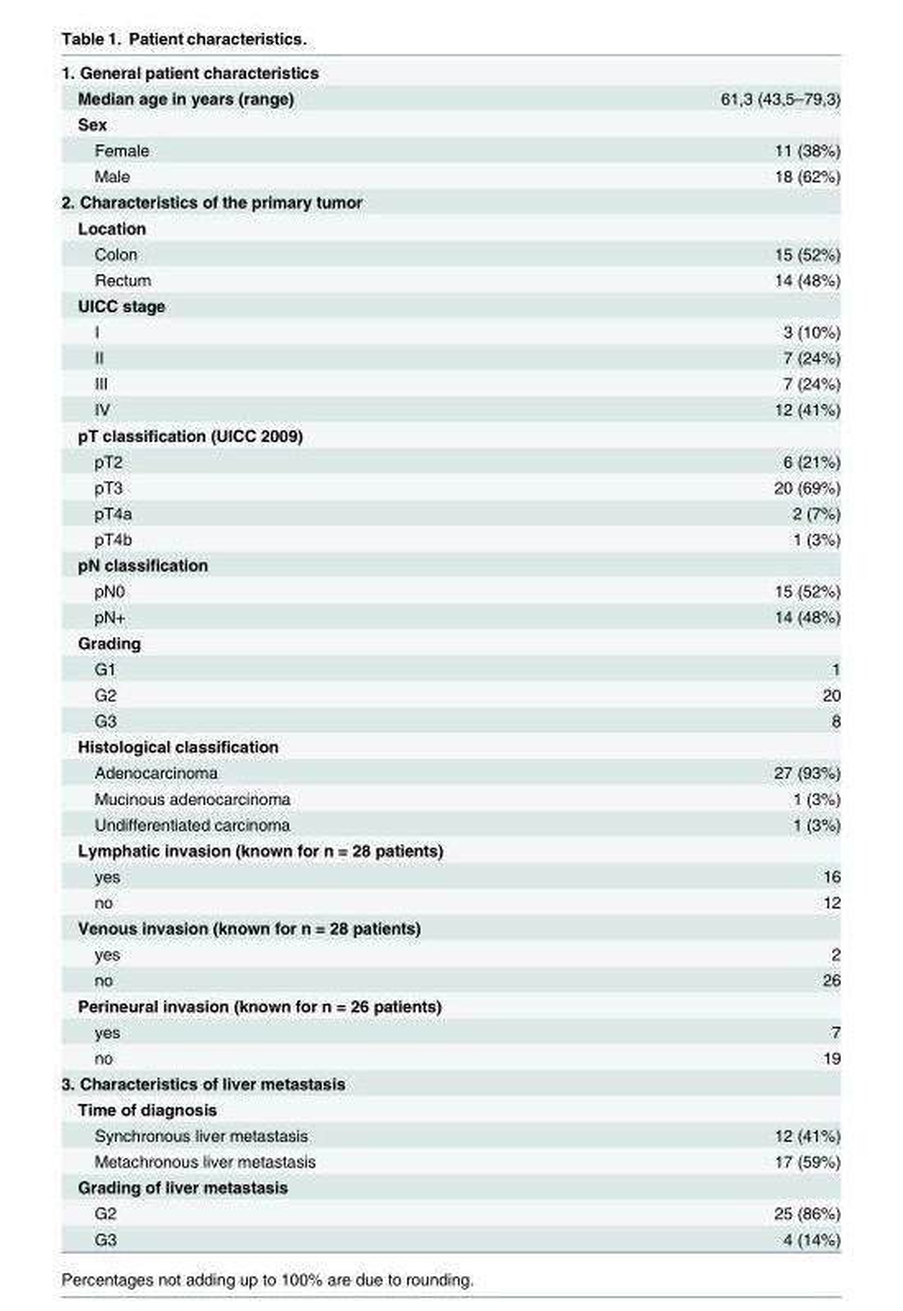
<table><tbody><tr><td colspan="2">1. General patient characteristics</td></tr><tr><td>Median age in years (range)</td><td>61,3 (43,5–79,3)</td></tr><tr><td colspan="2">Sex</td></tr><tr><td>Female</td><td>11 (38%)</td></tr><tr><td>Male</td><td>18 (62%)</td></tr><tr><td colspan="2">2. Characteristics of the primary tumor</td></tr><tr><td colspan="2">Location</td></tr><tr><td>Colon</td><td>15 (52%)</td></tr><tr><td>Rectum</td><td>14 (48%)</td></tr><tr><td colspan="2">UICC stage</td></tr><tr><td>I</td><td>3 (10%)</td></tr><tr><td>II</td><td>7 (24%)</td></tr><tr><td>III</td><td>7 (24%)</td></tr><tr><td>IV</td><td>12 (41%)</td></tr><tr><td colspan="2">pT classification (UICC 2009)</td></tr><tr><td>pT2</td><td>6 (21%)</td></tr><tr><td>pT3</td><td>20 (69%)</td></tr><tr><td>pT4a</td><td>2 (7%)</td></tr><tr><td>pT4b</td><td>1 (3%)</td></tr><tr><td colspan="2">pN classification</td></tr><tr><td>pN0</td><td>15 (52%)</td></tr><tr><td>pN+</td><td>14 (48%)</td></tr><tr><td colspan="2">Grading</td></tr><tr><td>G1</td><td>1</td></tr><tr><td>G2</td><td>20</td></tr><tr><td>G3</td><td>8</td></tr><tr><td colspan="2">Histological classification</td></tr><tr><td>Adenocarcinoma</td><td>27 (93%)</td></tr><tr><td>Mucinous adenocarcinoma</td><td>1 (3%)</td></tr><tr><td>Undifferentiated carcinoma</td><td>1 (3%)</td></tr><tr><td colspan="2">Lymphatic invasion (known for n = 28 patients)</td></tr><tr><td>yes</td><td>16</td></tr><tr><td>no</td><td>12</td></tr><tr><td colspan="2">Venous invasion (known for n = 28 patients)</td></tr><tr><td>yes</td><td>2</td></tr><tr><td>no</td><td>26</td></tr><tr><td colspan="2">Perineural invasion (known for n = 26 patients)</td></tr><tr><td>yes</td><td>7</td></tr><tr><td>no</td><td>19</td></tr><tr><td colspan="2">3. Characteristics of liver metastasis</td></tr><tr><td colspan="2">Time of diagnosis</td></tr><tr><td>Synchronous liver metastasis</td><td>12 (41%)</td></tr><tr><td>Metachronous liver metastasis</td><td>17 (59%)</td></tr><tr><td colspan="2">Grading of liver metastasis</td></tr><tr><td>G2</td><td>25 (86%)</td></tr><tr><td>G3</td><td>4 (14%)</td></tr></tbody></table>